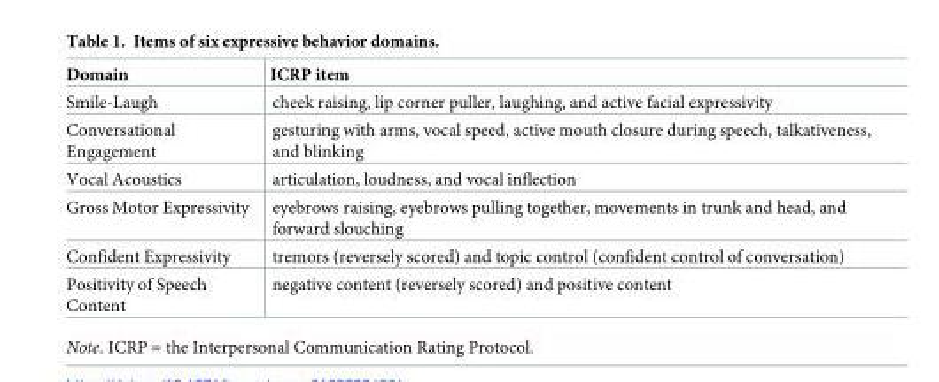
<table><thead><tr><td>Domain</td><td>ICRP item</td></tr></thead><tbody><tr><td>Smile-Laugh</td><td>cheek raising, lip corner puller, laughing, and active facial expressivity</td></tr><tr><td>Conversational Engagement</td><td>gesturing with arms, vocal speed, active mouth closure during speech, talkativeness, and blinking</td></tr><tr><td>Vocal Acoustics</td><td>articulation, loudness, and vocal inflection</td></tr><tr><td>Gross Motor Expressivity</td><td>eyebrows raising, eyebrows pulling together, movements in trunk and head, and forward slouching</td></tr><tr><td>Confident Expressivity</td><td>tremors (reversely scored) and topic control (confident control of conversation)</td></tr><tr><td>Positivity of Speech Content</td><td>negative content (reversely scored) and positive content</td></tr></tbody></table>